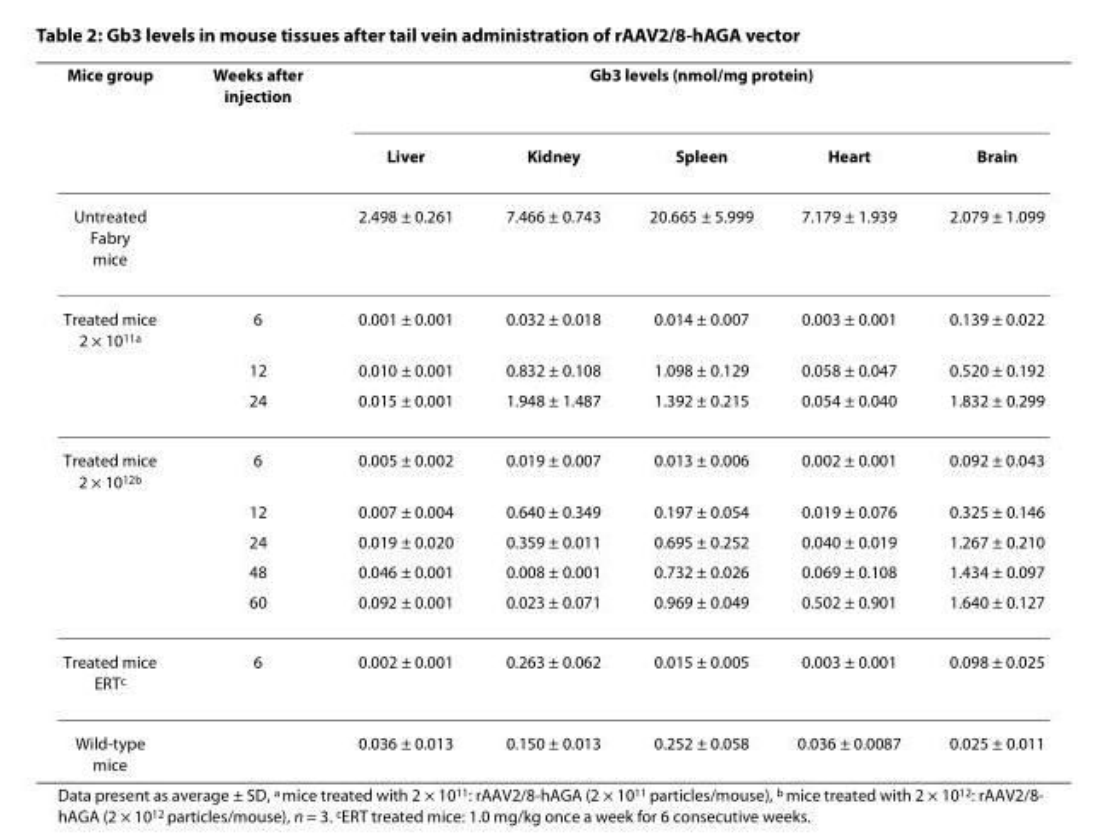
<table><thead><tr><td rowspan="2">Mice group</td><td rowspan="2">Weeks after injection</td><td colspan="5">Gb3 levels (nmol/mg protein)</td></tr><tr><td>Liver</td><td>Kidney</td><td>Spleen</td><td>Heart</td><td>Brain</td></tr></thead><tbody><tr><td>Untreated Fabry mice</td><td></td><td>2.498 ± 0.261</td><td>7.466 ± 0.743</td><td>20.665 ± 5.999</td><td>7.179 ± 1.939</td><td>2.079 ± 1.099</td></tr><tr><td rowspan="3">Treated mice 2 × 10<sup>11a</sup></td><td>6</td><td>0.001 ± 0.001</td><td>0.032 ± 0.018</td><td>0.014 ± 0.007</td><td>0.003 ± 0.001</td><td>0.139 ± 0.022</td></tr><tr><td>12</td><td>0.010 ± 0.001</td><td>0.832 ± 0.108</td><td>1.098 ± 0.129</td><td>0.058 ± 0.047</td><td>0.520 ± 0.192</td></tr><tr><td>24</td><td>0.015 ± 0.001</td><td>1.948 ± 1.487</td><td>1.392 ± 0.215</td><td>0.054 ± 0.040</td><td>1.832 ± 0.299</td></tr><tr><td rowspan="5">Treated mice 2 × 10<sup>12b</sup></td><td>6</td><td>0.005 ± 0.002</td><td>0.019 ± 0.007</td><td>0.013 ± 0.006</td><td>0.002 ± 0.001</td><td>0.092 ± 0.043</td></tr><tr><td>12</td><td>0.007 ± 0.004</td><td>0.640 ± 0.349</td><td>0.197 ± 0.054</td><td>0.019 ± 0.076</td><td>0.325 ± 0.146</td></tr><tr><td>24</td><td>0.019 ± 0.020</td><td>0.359 ± 0.011</td><td>0.695 ± 0.252</td><td>0.040 ± 0.019</td><td>1.267 ± 0.210</td></tr><tr><td>48</td><td>0.046 ± 0.001</td><td>0.008 ± 0.001</td><td>0.732 ± 0.026</td><td>0.069 ± 0.108</td><td>1.434 ± 0.097</td></tr><tr><td>60</td><td>0.092 ± 0.001</td><td>0.023 ± 0.071</td><td>0.969 ± 0.049</td><td>0.502 ± 0.901</td><td>1.640 ± 0.127</td></tr><tr><td>Treated mice ERT<sup>c</sup></td><td>6</td><td>0.002 ± 0.001</td><td>0.263 ± 0.062</td><td>0.015 ± 0.005</td><td>0.003 ± 0.001</td><td>0.098 ± 0.025</td></tr><tr><td>Wild-type mice</td><td></td><td>0.036 ± 0.013</td><td>0.150 ± 0.013</td><td>0.252 ± 0.058</td><td>0.036 ± 0.0087</td><td>0.025 ± 0.011</td></tr></tbody></table>